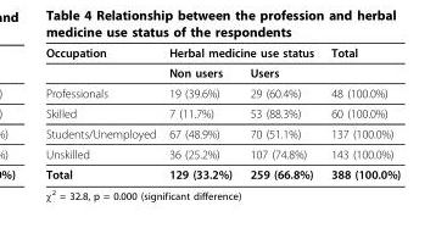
<table><thead><tr><td rowspan="2">Occupation</td><td colspan="2">Herbal medicine use status</td><td rowspan="2">Total</td></tr><tr><td>Non users</td><td>Users</td></tr></thead><tbody><tr><td>Professionals</td><td>19 (39.6%)</td><td>29 (60.4%)</td><td>48 (100.0%)</td></tr><tr><td>Skilled</td><td>7 (11.7%)</td><td>53 (88.3%)</td><td>60 (100.0%)</td></tr><tr><td>Students/Unemployed</td><td>67 (48.9%)</td><td>70 (51.1%)</td><td>137 (100.0%)</td></tr><tr><td>Unskilled</td><td>36 (25.2%)</td><td>107 (74.8%)</td><td>143 (100.0%)</td></tr><tr><td>Total</td><td>129 (33.2%)</td><td>259 (66.8%)</td><td>388 (100.0%)</td></tr></tbody></table>